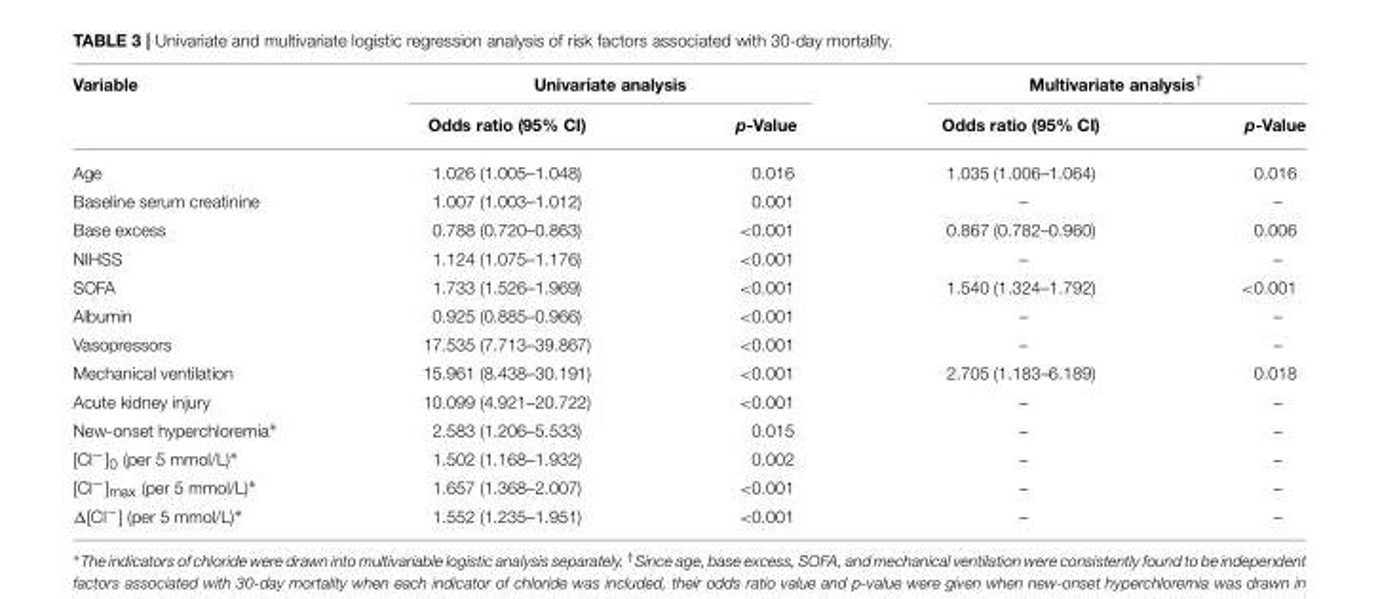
<table><thead><tr><td rowspan="2">Variable</td><td colspan="2">Univariate analysis</td><td colspan="2">Multivariate analysis<sup>†</sup></td></tr><tr><td>Odds ratio (95% CI)</td><td>p-Value</td><td>Odds ratio (95% CI)</td><td>p-Value</td></tr></thead><tbody><tr><td>Age</td><td>1.026 (1.005–1.048)</td><td>0.016</td><td>1.035 (1.006–1.064)</td><td>0.016</td></tr><tr><td>Baseline serum creatinine</td><td>1.007 (1.003–1.012)</td><td>0.001</td><td>–</td><td>–</td></tr><tr><td>Base excess</td><td>0.788 (0.720–0.863)</td><td>&lt;0.001</td><td>0.867 (0.782–0.960)</td><td>0.006</td></tr><tr><td>NIHSS</td><td>1.124 (1.075–1.176)</td><td>&lt;0.001</td><td>–</td><td>–</td></tr><tr><td>SOFA</td><td>1.733 (1.526–1.969)</td><td>&lt;0.001</td><td>1.540 (1.324–1.792)</td><td>&lt;0.001</td></tr><tr><td>Albumin</td><td>0.925 (0.885–0.966)</td><td>&lt;0.001</td><td>–</td><td>–</td></tr><tr><td>Vasopressors</td><td>17.535 (7.713–39.867)</td><td>&lt;0.001</td><td>–</td><td>–</td></tr><tr><td>Mechanical ventilation</td><td>15.961 (8.438–30.191)</td><td>&lt;0.001</td><td>2.705 (1.183–6.189)</td><td>0.018</td></tr><tr><td>Acute kidney injury</td><td>10.099 (4.921–20.722)</td><td>&lt;0.001</td><td>–</td><td>–</td></tr><tr><td>New-onset hyperchloremia∗</td><td>2.583 (1.206–5.533)</td><td>0.015</td><td>–</td><td>–</td></tr><tr><td>[Cl−]0 (per 5 mmol/L)∗</td><td>1.502 (1.168–1.932)</td><td>0.002</td><td>–</td><td>–</td></tr><tr><td>[Cl−]max (per 5 mmol/L)∗</td><td>1.657 (1.368–2.007)</td><td>&lt;0.001</td><td>–</td><td>–</td></tr><tr><td>Δ[Cl−] (per 5 mmol/L)∗</td><td>1.552 (1.235–1.951)</td><td>&lt;0.001</td><td>–</td><td>–</td></tr></tbody></table>